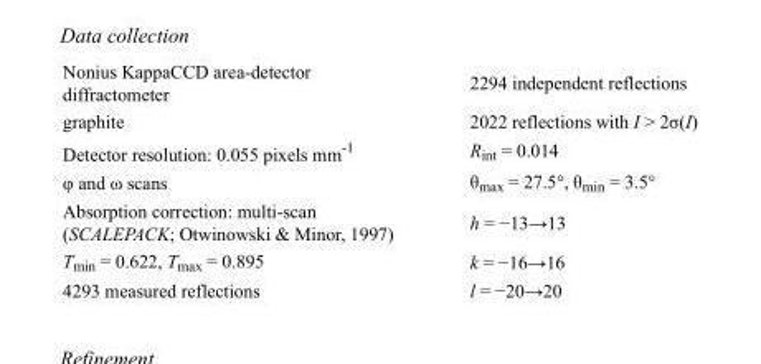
<table><tbody><tr><td>Nonius KappaCCD area-detector diffractometer</td><td>2294 independent reflections</td></tr><tr><td>graphite</td><td>2022 reflections with I &gt; 2σ(I)</td></tr><tr><td>Detector resolution: 0.055 pixels mm<sup>-1</sup></td><td>R<sub>int</sub> = 0.014</td></tr><tr><td>φ and ω scans</td><td>θ<sub>max</sub> = 27.5°, θ<sub>min</sub> = 3.5°</td></tr><tr><td>Absorption correction: multi-scan (SCALEPACK; Otwinowski &amp; Minor, 1997)</td><td>h = −13→13</td></tr><tr><td>T<sub>min</sub> = 0.622, T<sub>max</sub> = 0.895</td><td>k = −16→16</td></tr><tr><td>4293 measured reflections</td><td>l = −20→20</td></tr></tbody></table>